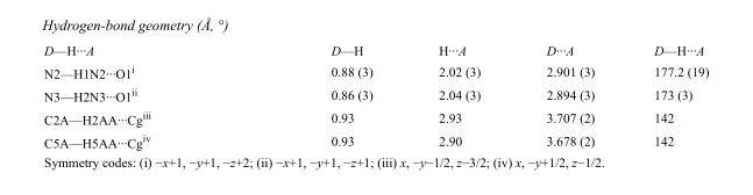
<table><tbody><tr><td>D—H···A</td><td>D—H</td><td>H···A</td><td>D···A</td><td>D—H···A</td></tr><tr><td>N2—H1N2···O1<sup>i</sup></td><td>0.88 (3)</td><td>2.02 (3)</td><td>2.901 (3)</td><td>177.2 (19)</td></tr><tr><td>N3—H2N3···O1<sup>ii</sup></td><td>0.86 (3)</td><td>2.04 (3)</td><td>2.894 (3)</td><td>173 (3)</td></tr><tr><td>C2A—H2AA···Cg<sup>iii</sup></td><td>0.93</td><td>2.93</td><td>3.707 (2)</td><td>142</td></tr><tr><td>C5A—H5AA···Cg<sup>iv</sup></td><td>0.93</td><td>2.90</td><td>3.678 (2)</td><td>142</td></tr></tbody></table>